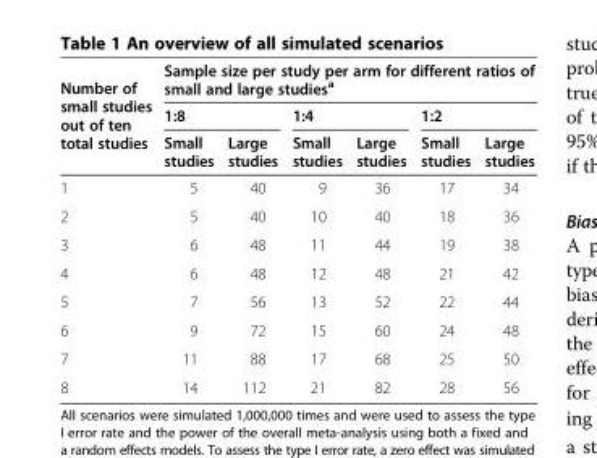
<table><thead><tr><td rowspan="3">Number of small studies out of ten total studies</td><td colspan="6">Sample size per study per arm for different ratios of small and large studies<sup>a</sup></td></tr><tr><td colspan="2">1:8</td><td colspan="2">1:4</td><td colspan="2">1:2</td></tr><tr><td>Small studies</td><td>Large studies</td><td>Small studies</td><td>Large studies</td><td>Small studies</td><td>Large studies</td></tr></thead><tbody><tr><td>1</td><td>5</td><td>40</td><td>9</td><td>36</td><td>17</td><td>34</td></tr><tr><td>2</td><td>5</td><td>40</td><td>10</td><td>40</td><td>18</td><td>36</td></tr><tr><td>3</td><td>6</td><td>48</td><td>11</td><td>44</td><td>19</td><td>38</td></tr><tr><td>4</td><td>6</td><td>48</td><td>12</td><td>48</td><td>21</td><td>42</td></tr><tr><td>5</td><td>7</td><td>56</td><td>13</td><td>52</td><td>22</td><td>44</td></tr><tr><td>6</td><td>9</td><td>72</td><td>15</td><td>60</td><td>24</td><td>48</td></tr><tr><td>7</td><td>11</td><td>88</td><td>17</td><td>68</td><td>25</td><td>50</td></tr><tr><td>8</td><td>14</td><td>112</td><td>21</td><td>82</td><td>28</td><td>56</td></tr></tbody></table>